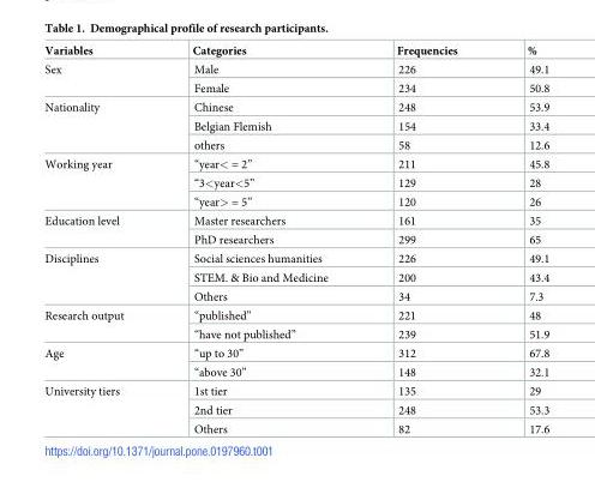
<table><thead><tr><td>Variables</td><td>Categories</td><td>Frequencies</td><td>%</td></tr></thead><tbody><tr><td rowspan="2">Sex</td><td>Male</td><td>226</td><td>49.1</td></tr><tr><td>Female</td><td>234</td><td>50.8</td></tr><tr><td rowspan="3">Nationality</td><td>Chinese</td><td>248</td><td>53.9</td></tr><tr><td>Belgian Flemish</td><td>154</td><td>33.4</td></tr><tr><td>others</td><td>58</td><td>12.6</td></tr><tr><td rowspan="3">Working year</td><td>“year&lt; = 2”</td><td>211</td><td>45.8</td></tr><tr><td>“3&lt;year&lt;5”</td><td>129</td><td>28</td></tr><tr><td>“year&gt; = 5”</td><td>120</td><td>26</td></tr><tr><td rowspan="2">Education level</td><td>Master researchers</td><td>161</td><td>35</td></tr><tr><td>PhD researchers</td><td>299</td><td>65</td></tr><tr><td rowspan="3">Disciplines</td><td>Social sciences humanities</td><td>226</td><td>49.1</td></tr><tr><td>STEM. &amp; Bio and Medicine</td><td>200</td><td>43.4</td></tr><tr><td>Others</td><td>34</td><td>7.3</td></tr><tr><td rowspan="2">Research output</td><td>“published”</td><td>221</td><td>48</td></tr><tr><td>“have not published”</td><td>239</td><td>51.9</td></tr><tr><td rowspan="2">Age</td><td>“up to 30”</td><td>312</td><td>67.8</td></tr><tr><td>“above 30”</td><td>148</td><td>32.1</td></tr><tr><td rowspan="3">University tiers</td><td>1st tier</td><td>135</td><td>29</td></tr><tr><td>2nd tier</td><td>248</td><td>53.3</td></tr><tr><td>Others</td><td>82</td><td>17.6</td></tr></tbody></table>